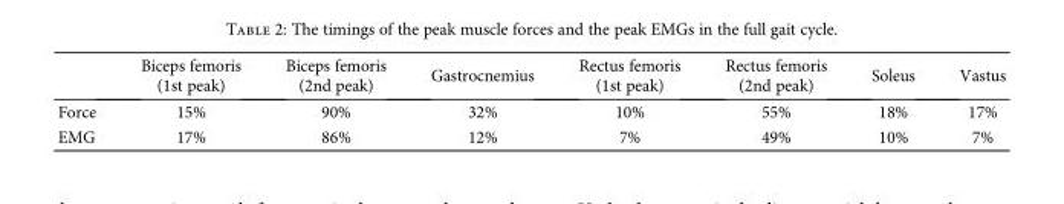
<table><thead><tr><td></td><td>Biceps femoris (1st peak)</td><td>Biceps femoris (2nd peak)</td><td>Gastrocnemius</td><td>Rectus femoris (1st peak)</td><td>Rectus femoris (2nd peak)</td><td>Soleus</td><td>Vastus</td></tr></thead><tbody><tr><td>Force</td><td>15%</td><td>90%</td><td>32%</td><td>10%</td><td>55%</td><td>18%</td><td>17%</td></tr><tr><td>EMG</td><td>17%</td><td>86%</td><td>12%</td><td>7%</td><td>49%</td><td>10%</td><td>7%</td></tr></tbody></table>